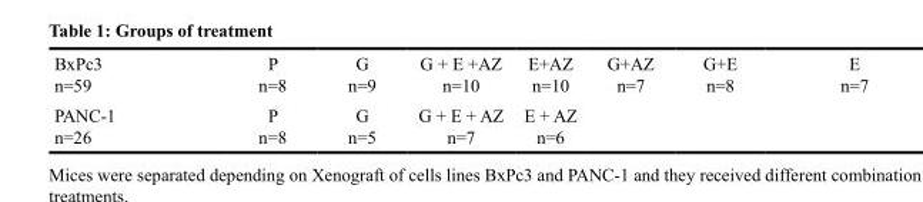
<table><tbody><tr><td>BxPc3 n=59</td><td>P n=8</td><td>G n=9</td><td>G + E +AZ n=10</td><td>E+AZ n=10</td><td>G+AZ n=7</td><td>G+E n=8</td><td>E n=7</td></tr><tr><td>PANC-1 n=26</td><td>P n=8</td><td>G n=5</td><td>G + E + AZ n=7</td><td>E + AZ n=6</td><td></td><td></td><td></td></tr></tbody></table>